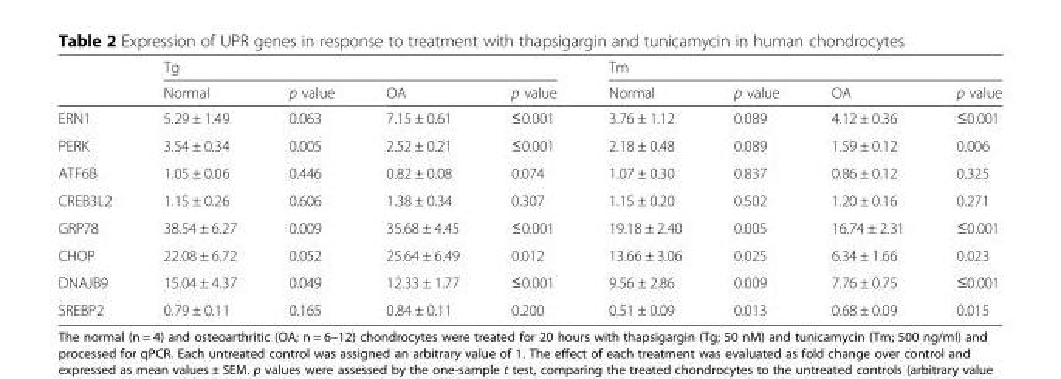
<table><thead><tr><td rowspan="2"></td><td colspan="4">Tg</td><td colspan="4">Tm</td></tr><tr><td>Normal</td><td>p value</td><td>OA</td><td>p value</td><td>Normal</td><td>p value</td><td>OA</td><td>p value</td></tr></thead><tbody><tr><td>ERN1</td><td>5.29 ± 1.49</td><td>0.063</td><td>7.15 ± 0.61</td><td>≤0.001</td><td>3.76 ± 1.12</td><td>0.089</td><td>4.12 ± 0.36</td><td>≤0.001</td></tr><tr><td>PERK</td><td>3.54 ± 0.34</td><td>0.005</td><td>2.52 ± 0.21</td><td>≤0.001</td><td>2.18 ± 0.48</td><td>0.089</td><td>1.59 ± 0.12</td><td>0.006</td></tr><tr><td>ATF6B</td><td>1.05 ± 0.06</td><td>0.446</td><td>0.82 ± 0.08</td><td>0.074</td><td>1.07 ± 0.30</td><td>0.837</td><td>0.86 ± 0.12</td><td>0.325</td></tr><tr><td>CREB3L2</td><td>1.15 ± 0.26</td><td>0.606</td><td>1.38 ± 0.34</td><td>0.307</td><td>1.15 ± 0.20</td><td>0.502</td><td>1.20 ± 0.16</td><td>0.271</td></tr><tr><td>GRP78</td><td>38.54 ± 6.27</td><td>0.009</td><td>35.68 ± 4.45</td><td>≤0.001</td><td>19.18 ± 2.40</td><td>0.005</td><td>16.74 ± 2.31</td><td>≤0.001</td></tr><tr><td>CHOP</td><td>22.08 ± 6.72</td><td>0.052</td><td>25.64 ± 6.49</td><td>0.012</td><td>13.66 ± 3.06</td><td>0.025</td><td>6.34 ± 1.66</td><td>0.023</td></tr><tr><td>DNAJB9</td><td>15.04 ± 4.37</td><td>0.049</td><td>12.33 ± 1.77</td><td>≤0.001</td><td>9.56 ± 2.86</td><td>0.009</td><td>7.76 ± 0.75</td><td>≤0.001</td></tr><tr><td>SREBP2</td><td>0.79 ± 0.11</td><td>0.165</td><td>0.84 ± 0.11</td><td>0.200</td><td>0.51 ± 0.09</td><td>0.013</td><td>0.68 ± 0.09</td><td>0.015</td></tr></tbody></table>